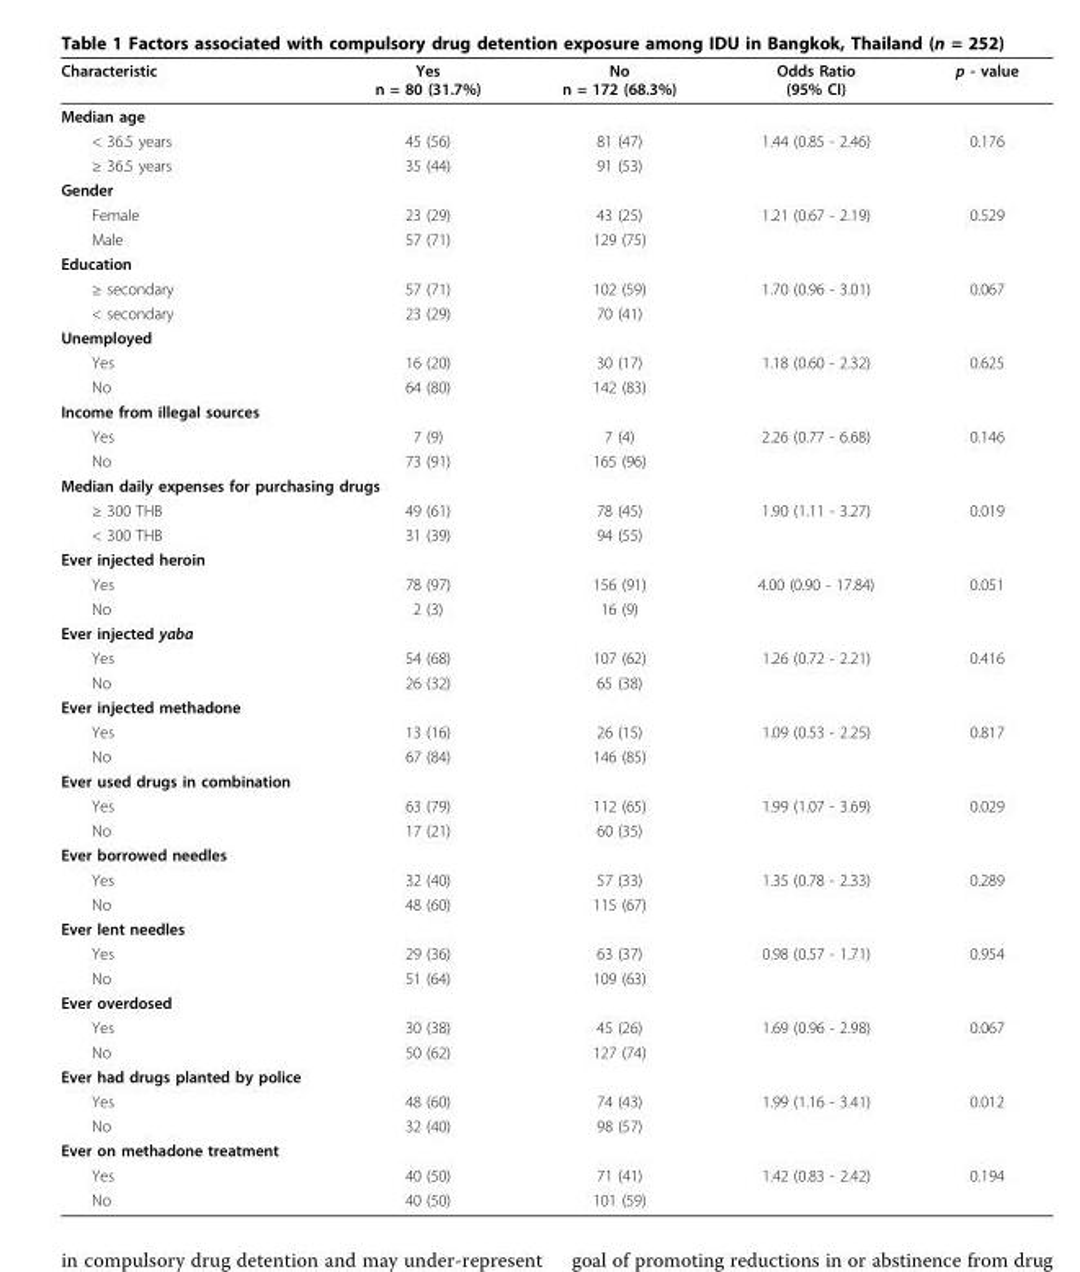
<table><thead><tr><td>Characteristic</td><td>Yes n = 80 (31.7%)</td><td>No n = 172 (68.3%)</td><td>Odds Ratio (95% CI)</td><td>p - value</td></tr></thead><tbody><tr><td colspan="5">Median age</td></tr><tr><td>&lt; 36.5 years</td><td>45 (56)</td><td>81 (47)</td><td>1.44 (0.85 - 2.46)</td><td>0.176</td></tr><tr><td>≥ 36.5 years</td><td>35 (44)</td><td>91 (53)</td><td></td><td></td></tr><tr><td colspan="5">Gender</td></tr><tr><td>Female</td><td>23 (29)</td><td>43 (25)</td><td>1.21 (0.67 - 2.19)</td><td>0.529</td></tr><tr><td>Male</td><td>57 (71)</td><td>129 (75)</td><td></td><td></td></tr><tr><td colspan="5">Education</td></tr><tr><td>≥ secondary</td><td>57 (71)</td><td>102 (59)</td><td>1.70 (0.96 - 3.01)</td><td>0.067</td></tr><tr><td>&lt; secondary</td><td>23 (29)</td><td>70 (41)</td><td></td><td></td></tr><tr><td colspan="5">Unemployed</td></tr><tr><td>Yes</td><td>16 (20)</td><td>30 (17)</td><td>1.18 (0.60 - 2.32)</td><td>0.625</td></tr><tr><td>No</td><td>64 (80)</td><td>142 (83)</td><td></td><td></td></tr><tr><td colspan="5">Income from illegal sources</td></tr><tr><td>Yes</td><td>7 (9)</td><td>7 (4)</td><td>2.26 (0.77 - 6.68)</td><td>0.146</td></tr><tr><td>No</td><td>73 (91)</td><td>165 (96)</td><td></td><td></td></tr><tr><td colspan="5">Median daily expenses for purchasing drugs</td></tr><tr><td>≥ 300 THB</td><td>49 (61)</td><td>78 (45)</td><td>1.90 (1.11 - 3.27)</td><td>0.019</td></tr><tr><td>&lt; 300 THB</td><td>31 (39)</td><td>94 (55)</td><td></td><td></td></tr><tr><td colspan="5">Ever injected heroin</td></tr><tr><td>Yes</td><td>78 (97)</td><td>156 (91)</td><td>4.00 (0.90 - 17.84)</td><td>0.051</td></tr><tr><td>No</td><td>2 (3)</td><td>16 (9)</td><td></td><td></td></tr><tr><td colspan="5">Ever injected yaba</td></tr><tr><td>Yes</td><td>54 (68)</td><td>107 (62)</td><td>1.26 (0.72 - 2.21)</td><td>0.416</td></tr><tr><td>No</td><td>26 (32)</td><td>65 (38)</td><td></td><td></td></tr><tr><td colspan="5">Ever injected methadone</td></tr><tr><td>Yes</td><td>13 (16)</td><td>26 (15)</td><td>1.09 (0.53 - 2.25)</td><td>0.817</td></tr><tr><td>No</td><td>67 (84)</td><td>146 (85)</td><td></td><td></td></tr><tr><td colspan="5">Ever used drugs in combination</td></tr><tr><td>Yes</td><td>63 (79)</td><td>112 (65)</td><td>1.99 (1.07 - 3.69)</td><td>0.029</td></tr><tr><td>No</td><td>17 (21)</td><td>60 (35)</td><td></td><td></td></tr><tr><td colspan="5">Ever borrowed needles</td></tr><tr><td>Yes</td><td>32 (40)</td><td>57 (33)</td><td>1.35 (0.78 - 2.33)</td><td>0.289</td></tr><tr><td>No</td><td>48 (60)</td><td>115 (67)</td><td></td><td></td></tr><tr><td colspan="5">Ever lent needles</td></tr><tr><td>Yes</td><td>29 (36)</td><td>63 (37)</td><td>0.98 (0.57 - 1.71)</td><td>0.954</td></tr><tr><td>No</td><td>51 (64)</td><td>109 (63)</td><td></td><td></td></tr><tr><td colspan="5">Ever overdosed</td></tr><tr><td>Yes</td><td>30 (38)</td><td>45 (26)</td><td>1.69 (0.96 - 2.98)</td><td>0.067</td></tr><tr><td>No</td><td>50 (62)</td><td>127 (74)</td><td></td><td></td></tr><tr><td colspan="5">Ever had drugs planted by police</td></tr><tr><td>Yes</td><td>48 (60)</td><td>74 (43)</td><td>1.99 (1.16 - 3.41)</td><td>0.012</td></tr><tr><td>No</td><td>32 (40)</td><td>98 (57)</td><td></td><td></td></tr><tr><td colspan="5">Ever on methadone treatment</td></tr><tr><td>Yes</td><td>40 (50)</td><td>71 (41)</td><td>1.42 (0.83 - 2.42)</td><td>0.194</td></tr><tr><td>No</td><td>40 (50)</td><td>101 (59)</td><td></td><td></td></tr></tbody></table>